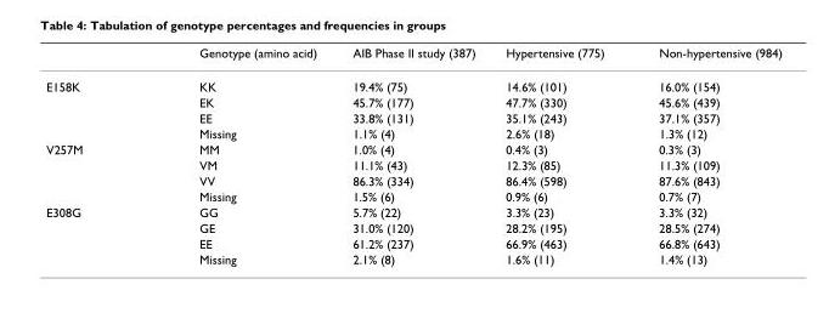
<table><thead><tr><td></td><td>Genotype (amino acid)</td><td>AIB Phase II study (387)</td><td>Hypertensive (775)</td><td>Non-hypertensive (984)</td></tr></thead><tbody><tr><td rowspan="4">E158K</td><td>KK</td><td>19.4% (75)</td><td>14.6% (101)</td><td>16.0% (154)</td></tr><tr><td>EK</td><td>45.7% (177)</td><td>47.7% (330)</td><td>45.6% (439)</td></tr><tr><td>EE</td><td>33.8% (131)</td><td>35.1% (243)</td><td>37.1% (357)</td></tr><tr><td>Missing</td><td>1.1% (4)</td><td>2.6% (18)</td><td>1.3% (12)</td></tr><tr><td rowspan="4">V257M</td><td>MM</td><td>1.0% (4)</td><td>0.4% (3)</td><td>0.3% (3)</td></tr><tr><td>VM</td><td>11.1% (43)</td><td>12.3% (85)</td><td>11.3% (109)</td></tr><tr><td>VV</td><td>86.3% (334)</td><td>86.4% (598)</td><td>87.6% (843)</td></tr><tr><td>Missing</td><td>1.5% (6)</td><td>0.9% (6)</td><td>0.7% (7)</td></tr><tr><td rowspan="4">E308G</td><td>GG</td><td>5.7% (22)</td><td>3.3% (23)</td><td>3.3% (32)</td></tr><tr><td>GE</td><td>31.0% (120)</td><td>28.2% (195)</td><td>28.5% (274)</td></tr><tr><td>EE</td><td>61.2% (237)</td><td>66.9% (463)</td><td>66.8% (643)</td></tr><tr><td>Missing</td><td>2.1% (8)</td><td>1.6% (11)</td><td>1.4% (13)</td></tr></tbody></table>